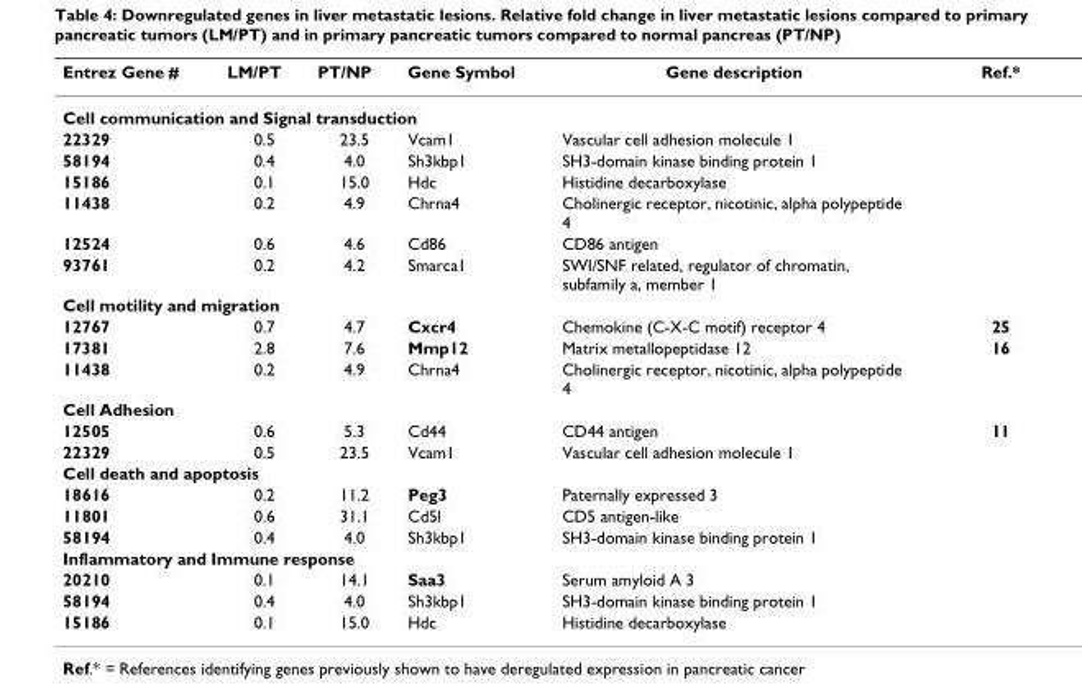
<table><thead><tr><td>Entrez Gene #</td><td>LM/PT</td><td>PT/NP</td><td>Gene Symbol</td><td>Gene description</td><td>Ref.*</td></tr></thead><tbody><tr><td colspan="6">Cell communication and Signal transduction</td></tr><tr><td>22329</td><td>0.5</td><td>23.5</td><td>Vcam1</td><td>Vascular cell adhesion molecule 1</td><td></td></tr><tr><td>58194</td><td>0.4</td><td>4.0</td><td>Sh3kbp1</td><td>SH3-domain kinase binding protein 1</td><td></td></tr><tr><td>15186</td><td>0.1</td><td>15.0</td><td>Hdc</td><td>Histidine decarboxylase</td><td></td></tr><tr><td>11438</td><td>0.2</td><td>4.9</td><td>Chrna4</td><td>Cholinergic receptor, nicotinic, alpha polypeptide 4</td><td></td></tr><tr><td>12524</td><td>0.6</td><td>4.6</td><td>Cd86</td><td>CD86 antigen</td><td></td></tr><tr><td>93761</td><td>0.2</td><td>4.2</td><td>Smarca1</td><td>SWI/SNF related, regulator of chromatin, subfamily a, member 1</td><td></td></tr><tr><td colspan="6">Cell motility and migration</td></tr><tr><td>12767</td><td>0.7</td><td>4.7</td><td>Cxcr4</td><td>Chemokine (C-X-C motif) receptor 4</td><td>25</td></tr><tr><td>17381</td><td>2.8</td><td>7.6</td><td>Mmp12</td><td>Matrix metallopeptidase 12</td><td>16</td></tr><tr><td>11438</td><td>0.2</td><td>4.9</td><td>Chrna4</td><td>Cholinergic receptor, nicotinic, alpha polypeptide 4</td><td></td></tr><tr><td colspan="6">Cell Adhesion</td></tr><tr><td>12505</td><td>0.6</td><td>5.3</td><td>Cd44</td><td>CD44 antigen</td><td>11</td></tr><tr><td>22329</td><td>0.5</td><td>23.5</td><td>Vcam1</td><td>Vascular cell adhesion molecule 1</td><td></td></tr><tr><td colspan="6">Cell death and apoptosis</td></tr><tr><td>18616</td><td>0.2</td><td>11.2</td><td>Peg3</td><td>Paternally expressed 3</td><td></td></tr><tr><td>11801</td><td>0.6</td><td>31.1</td><td>Cd5l</td><td>CD5 antigen-like</td><td></td></tr><tr><td>58194</td><td>0.4</td><td>4.0</td><td>Sh3kbp1</td><td>SH3-domain kinase binding protein 1</td><td></td></tr><tr><td colspan="6">Inflammatory and Immune response</td></tr><tr><td>20210</td><td>0.1</td><td>14.1</td><td>Saa3</td><td>Serum amyloid A 3</td><td></td></tr><tr><td>58194</td><td>0.4</td><td>4.0</td><td>Sh3kbp1</td><td>SH3-domain kinase binding protein 1</td><td></td></tr><tr><td>15186</td><td>0.1</td><td>15.0</td><td>Hdc</td><td>Histidine decarboxylase</td><td></td></tr></tbody></table>